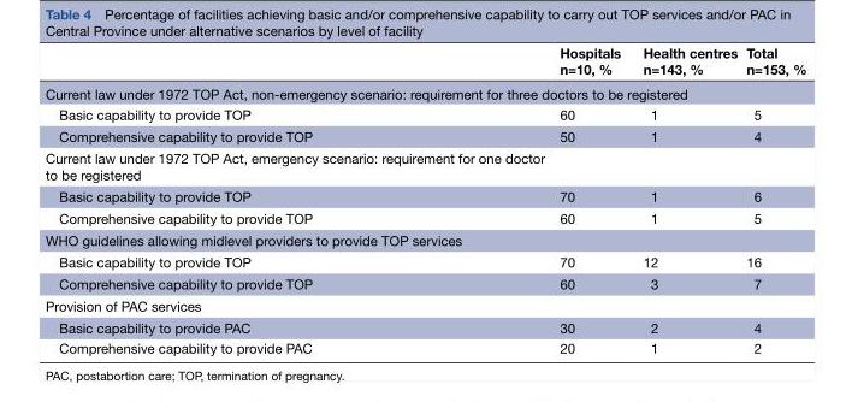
<table><thead><tr><td></td><td>Hospitals n=10, %</td><td>Health centres n=143, %</td><td>Total n=153, %</td></tr></thead><tbody><tr><td colspan="4">Current law under 1972 TOP Act, non-emergency scenario: requirement for three doctors to be registered</td></tr><tr><td>Basic capability to provide TOP</td><td>60</td><td>1</td><td>5</td></tr><tr><td>Comprehensive capability to provide TOP</td><td>50</td><td>1</td><td>4</td></tr><tr><td colspan="4">Current law under 1972 TOP Act, emergency scenario: requirement for one doctor to be registered</td></tr><tr><td>Basic capability to provide TOP</td><td>70</td><td>1</td><td>6</td></tr><tr><td>Comprehensive capability to provide TOP</td><td>60</td><td>1</td><td>5</td></tr><tr><td colspan="4">WHO guidelines allowing midlevel providers to provide TOP services</td></tr><tr><td>Basic capability to provide TOP</td><td>70</td><td>12</td><td>16</td></tr><tr><td>Comprehensive capability to provide TOP</td><td>60</td><td>3</td><td>7</td></tr><tr><td colspan="4">Provision of PAC services</td></tr><tr><td>Basic capability to provide PAC</td><td>30</td><td>2</td><td>4</td></tr><tr><td>Comprehensive capability to provide PAC</td><td>20</td><td>1</td><td>2</td></tr></tbody></table>